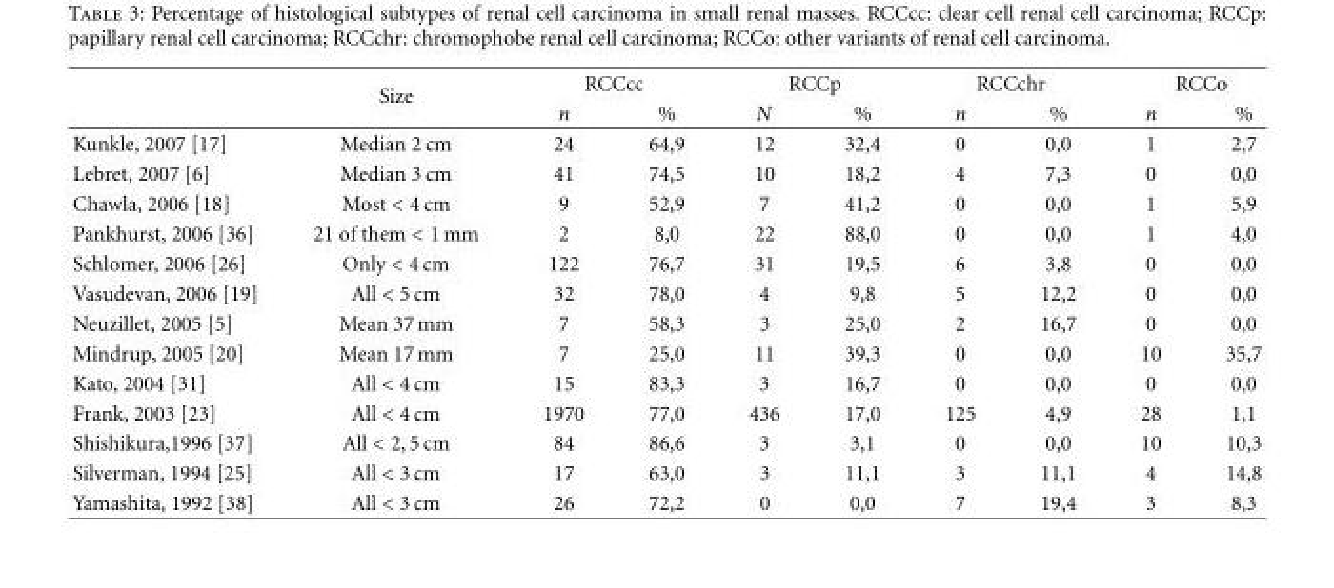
<table><thead><tr><td rowspan="2"></td><td rowspan="2">Size</td><td colspan="2">RCCcc</td><td colspan="2">RCCp</td><td colspan="2">RCCchr</td><td colspan="2">RCCo</td></tr><tr><td>n</td><td>%</td><td>N</td><td>%</td><td>n</td><td>%</td><td>n</td><td>%</td></tr></thead><tbody><tr><td>Kunkle, 2007 [17]</td><td>Median 2 cm</td><td>24</td><td>64,9</td><td>12</td><td>32,4</td><td>0</td><td>0,0</td><td>1</td><td>2,7</td></tr><tr><td>Lebret, 2007 [6]</td><td>Median 3 cm</td><td>41</td><td>74,5</td><td>10</td><td>18,2</td><td>4</td><td>7,3</td><td>0</td><td>0,0</td></tr><tr><td>Chawla, 2006 [18]</td><td>Most &lt; 4 cm</td><td>9</td><td>52,9</td><td>7</td><td>41,2</td><td>0</td><td>0,0</td><td>1</td><td>5,9</td></tr><tr><td>Pankhurst, 2006 [36]</td><td>21 of them &lt; 1 mm</td><td>2</td><td>8,0</td><td>22</td><td>88,0</td><td>0</td><td>0,0</td><td>1</td><td>4,0</td></tr><tr><td>Schlomer, 2006 [26]</td><td>Only &lt; 4 cm</td><td>122</td><td>76,7</td><td>31</td><td>19,5</td><td>6</td><td>3,8</td><td>0</td><td>0,0</td></tr><tr><td>Vasudevan, 2006 [19]</td><td>All &lt; 5 cm</td><td>32</td><td>78,0</td><td>4</td><td>9,8</td><td>5</td><td>12,2</td><td>0</td><td>0,0</td></tr><tr><td>Neuzillet, 2005 [5]</td><td>Mean 37 mm</td><td>7</td><td>58,3</td><td>3</td><td>25,0</td><td>2</td><td>16,7</td><td>0</td><td>0,0</td></tr><tr><td>Mindrup, 2005 [20]</td><td>Mean 17 mm</td><td>7</td><td>25,0</td><td>11</td><td>39,3</td><td>0</td><td>0,0</td><td>10</td><td>35,7</td></tr><tr><td>Kato, 2004 [31]</td><td>All &lt; 4 cm</td><td>15</td><td>83,3</td><td>3</td><td>16,7</td><td>0</td><td>0,0</td><td>0</td><td>0,0</td></tr><tr><td>Frank, 2003 [23]</td><td>All &lt; 4 cm</td><td>1970</td><td>77,0</td><td>436</td><td>17,0</td><td>125</td><td>4,9</td><td>28</td><td>1,1</td></tr><tr><td>Shishikura,1996 [37]</td><td>All &lt; 2,5 cm</td><td>84</td><td>86,6</td><td>3</td><td>3,1</td><td>0</td><td>0,0</td><td>10</td><td>10,3</td></tr><tr><td>Silverman, 1994 [25]</td><td>All &lt; 3 cm</td><td>17</td><td>63,0</td><td>3</td><td>11,1</td><td>3</td><td>11,1</td><td>4</td><td>14,8</td></tr><tr><td>Yamashita, 1992 [38]</td><td>All &lt; 3 cm</td><td>26</td><td>72,2</td><td>0</td><td>0,0</td><td>7</td><td>19,4</td><td>3</td><td>8,3</td></tr></tbody></table>